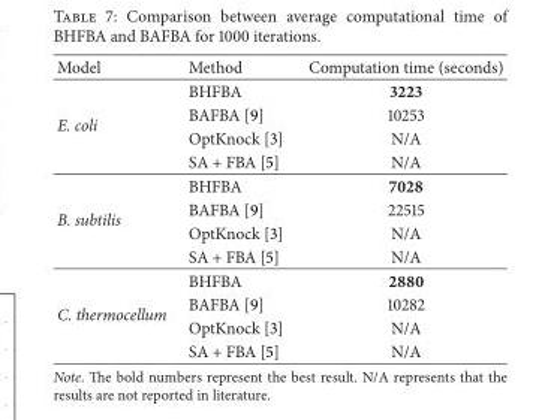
<table><thead><tr><td>Model</td><td>Method</td><td>Computation time (seconds)</td></tr></thead><tbody><tr><td rowspan="4">E. coli</td><td>BHFBA</td><td>3223</td></tr><tr><td>BAFBA [9]</td><td>10253</td></tr><tr><td>OptKnock [3]</td><td>N/A</td></tr><tr><td>SA + FBA [5]</td><td>N/A</td></tr><tr><td rowspan="4">B. subtilis</td><td>BHFBA</td><td>7028</td></tr><tr><td>BAFBA [9]</td><td>22515</td></tr><tr><td>OptKnock [3]</td><td>N/A</td></tr><tr><td>SA + FBA [5]</td><td>N/A</td></tr><tr><td rowspan="4">C. thermocellum</td><td>BHFBA</td><td>2880</td></tr><tr><td>BAFBA [9]</td><td>10282</td></tr><tr><td>OptKnock [3]</td><td>N/A</td></tr><tr><td>SA + FBA [5]</td><td>N/A</td></tr></tbody></table>